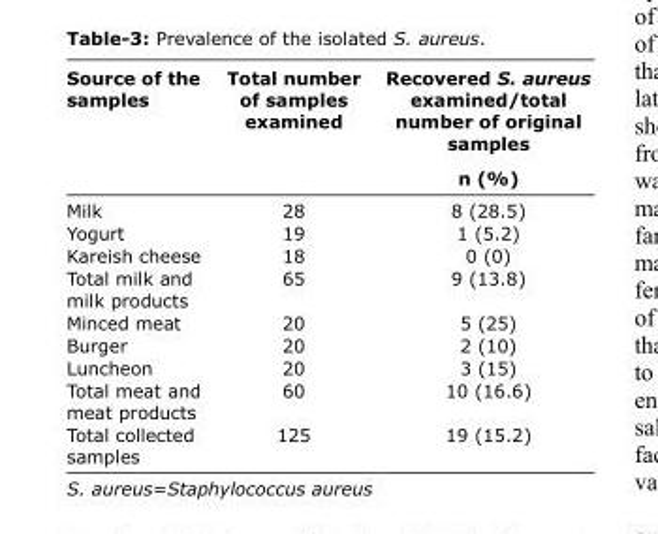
<table><thead><tr><td rowspan="2">Source of the samples</td><td rowspan="2">Total number of samples examined</td><td rowspan="2">Recovered S. aureus examined/total number of original samples n (%)</td></tr><tr></tr></thead><tbody><tr><td>Milk</td><td>28</td><td>8 (28.5)</td></tr><tr><td>Yogurt</td><td>19</td><td>1 (5.2)</td></tr><tr><td>Kareish cheese</td><td>18</td><td>0 (0)</td></tr><tr><td>Total milk and milk products</td><td>65</td><td>9 (13.8)</td></tr><tr><td>Minced meat</td><td>20</td><td>5 (25)</td></tr><tr><td>Burger</td><td>20</td><td>2 (10)</td></tr><tr><td>Luncheon</td><td>20</td><td>3 (15)</td></tr><tr><td>Total meat and meat products</td><td>60</td><td>10 (16.6)</td></tr><tr><td>Total collected samples</td><td>125</td><td>19 (15.2)</td></tr></tbody></table>